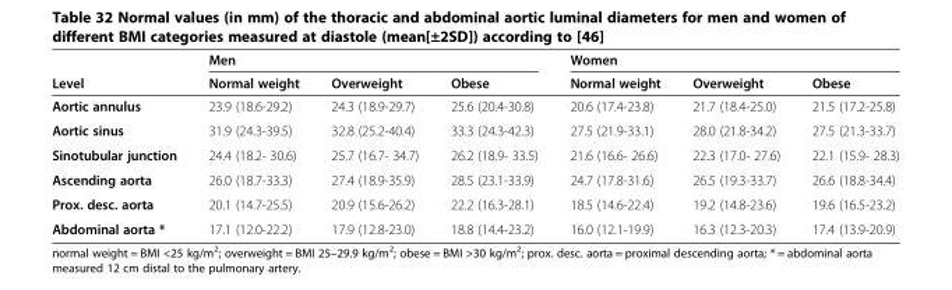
<table><thead><tr><td rowspan="2">Level</td><td colspan="3">Men</td><td colspan="3">Women</td></tr><tr><td>Normal weight</td><td>Overweight</td><td>Obese</td><td>Normal weight</td><td>Overweight</td><td>Obese</td></tr></thead><tbody><tr><td>Aortic annulus</td><td>23.9 (18.6-29.2)</td><td>24.3 (18.9-29.7)</td><td>25.6 (20.4-30.8)</td><td>20.6 (17.4-23.8)</td><td>21.7 (18.4-25.0)</td><td>21.5 (17.2-25.8)</td></tr><tr><td>Aortic sinus</td><td>31.9 (24.3-39.5)</td><td>32.8 (25.2-40.4)</td><td>33.3 (24.3-42.3)</td><td>27.5 (21.9-33.1)</td><td>28.0 (21.8-34.2)</td><td>27.5 (21.3-33.7)</td></tr><tr><td>Sinotubular junction</td><td>24.4 (18.2- 30.6)</td><td>25.7 (16.7- 34.7)</td><td>26.2 (18.9- 33.5)</td><td>21.6 (16.6- 26.6)</td><td>22.3 (17.0- 27.6)</td><td>22.1 (15.9- 28.3)</td></tr><tr><td>Ascending aorta</td><td>26.0 (18.7-33.3)</td><td>27.4 (18.9-35.9)</td><td>28.5 (23.1-33.9)</td><td>24.7 (17.8-31.6)</td><td>26.5 (19.3-33.7)</td><td>26.6 (18.8-34.4)</td></tr><tr><td>Prox. desc. aorta</td><td>20.1 (14.7-25.5)</td><td>20.9 (15.6-26.2)</td><td>22.2 (16.3-28.1)</td><td>18.5 (14.6-22.4)</td><td>19.2 (14.8-23.6)</td><td>19.6 (16.5-23.2)</td></tr><tr><td>Abdominal aorta *</td><td>17.1 (12.0-22.2)</td><td>17.9 (12.8-23.0)</td><td>18.8 (14.4-23.2)</td><td>16.0 (12.1-19.9)</td><td>16.3 (12.3-20.3)</td><td>17.4 (13.9-20.9)</td></tr></tbody></table>